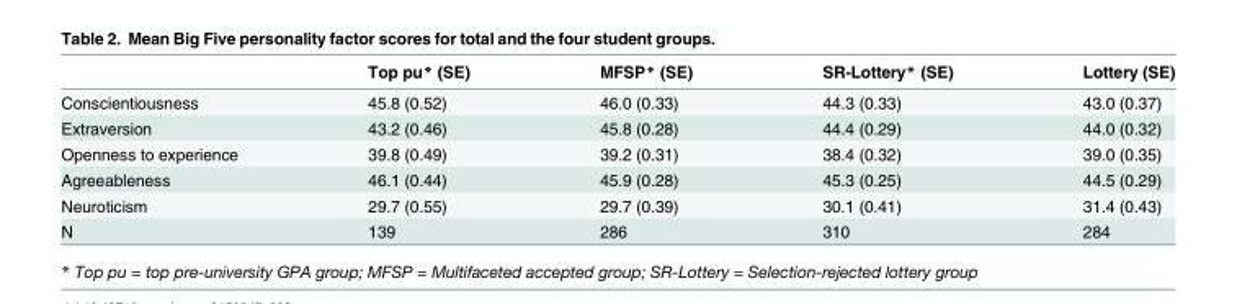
<table><thead><tr><td></td><td>Top pu* (SE)</td><td>MFSP* (SE)</td><td>SR-Lottery* (SE)</td><td>Lottery (SE)</td></tr></thead><tbody><tr><td>Conscientiousness</td><td>45.8 (0.52)</td><td>46.0 (0.33)</td><td>44.3 (0.33)</td><td>43.0 (0.37)</td></tr><tr><td>Extraversion</td><td>43.2 (0.46)</td><td>45.8 (0.28)</td><td>44.4 (0.29)</td><td>44.0 (0.32)</td></tr><tr><td>Openness to experience</td><td>39.8 (0.49)</td><td>39.2 (0.31)</td><td>38.4 (0.32)</td><td>39.0 (0.35)</td></tr><tr><td>Agreeableness</td><td>46.1 (0.44)</td><td>45.9 (0.28)</td><td>45.3 (0.25)</td><td>44.5 (0.29)</td></tr><tr><td>Neuroticism</td><td>29.7 (0.55)</td><td>29.7 (0.39)</td><td>30.1 (0.41)</td><td>31.4 (0.43)</td></tr><tr><td>N</td><td>139</td><td>286</td><td>310</td><td>284</td></tr></tbody></table>